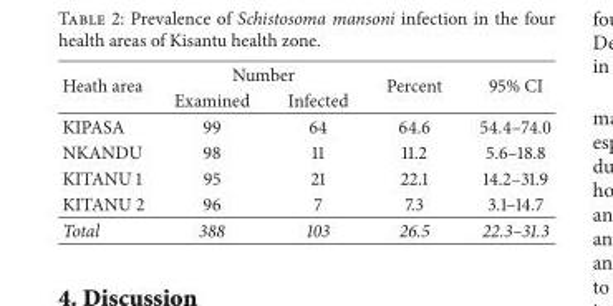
<table><thead><tr><td rowspan="2">Heath area</td><td colspan="2">Number</td><td rowspan="2">Percent</td><td rowspan="2">95% CI</td></tr><tr><td>Examined</td><td>Infected</td></tr></thead><tbody><tr><td>KIPASA</td><td>99</td><td>64</td><td>64.6</td><td>54.4–74.0</td></tr><tr><td>NKANDU</td><td>98</td><td>11</td><td>11.2</td><td>5.6–18.8</td></tr><tr><td>KITANU 1</td><td>95</td><td>21</td><td>22.1</td><td>14.2–31.9</td></tr><tr><td>KITANU 2</td><td>96</td><td>7</td><td>7.3</td><td>3.1–14.7</td></tr><tr><td>Total</td><td>388</td><td>103</td><td>26.5</td><td>22.3–31.3</td></tr></tbody></table>